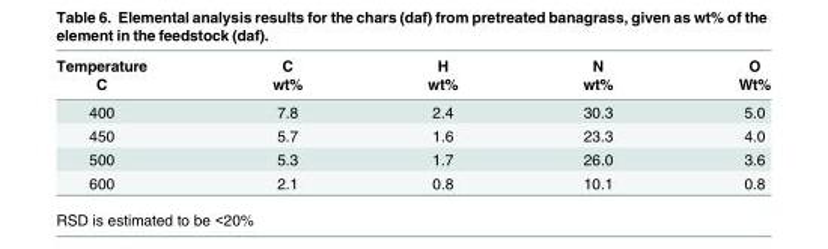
<table><thead><tr><td rowspan="2">Temperature C</td><td rowspan="2">C wt%</td><td rowspan="2">H wt%</td><td rowspan="2">N wt%</td><td rowspan="2">O Wt%</td></tr><tr></tr></thead><tbody><tr><td>400</td><td>7.8</td><td>2.4</td><td>30.3</td><td>5.0</td></tr><tr><td>450</td><td>5.7</td><td>1.6</td><td>23.3</td><td>4.0</td></tr><tr><td>500</td><td>5.3</td><td>1.7</td><td>26.0</td><td>3.6</td></tr><tr><td>600</td><td>2.1</td><td>0.8</td><td>10.1</td><td>0.8</td></tr></tbody></table>